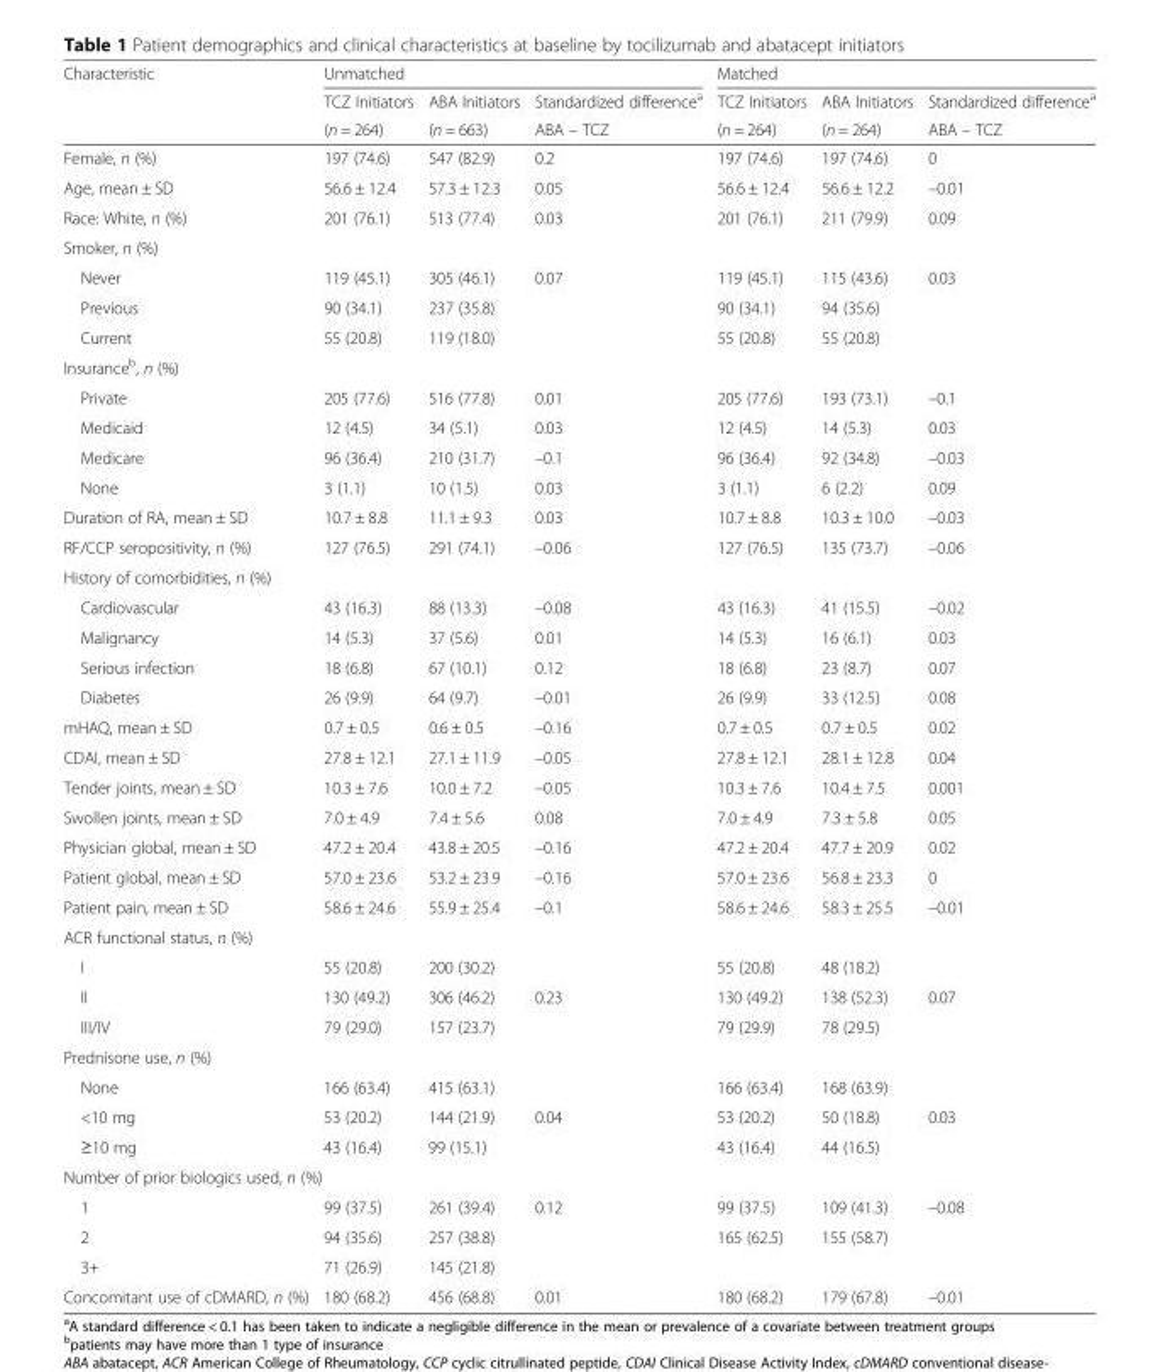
<table><thead><tr><td rowspan="3">Characteristic</td><td colspan="3">Unmatched</td><td colspan="3">Matched</td></tr><tr><td rowspan="2">TCZ Initiators (n = 264)</td><td rowspan="2">ABA Initiators (n = 663)</td><td rowspan="2">Standardized difference<sup>a</sup> ABA – TCZ</td><td rowspan="2">TCZ Initiators (n = 264)</td><td rowspan="2">ABA Initiators (n = 264)</td><td rowspan="2">Standardized difference<sup>a</sup> ABA – TCZ</td></tr><tr></tr></thead><tbody><tr><td>Female, n (%)</td><td>197 (74.6)</td><td>547 (82.9)</td><td>0.2</td><td>197 (74.6)</td><td>197 (74.6)</td><td>0</td></tr><tr><td>Age, mean ± SD</td><td>56.6 ± 12.4</td><td>57.3 ± 12.3</td><td>0.05</td><td>56.6 ± 12.4</td><td>56.6 ± 12.2</td><td>–0.01</td></tr><tr><td>Race: White, n (%)</td><td>201 (76.1)</td><td>513 (77.4)</td><td>0.03</td><td>201 (76.1)</td><td>211 (79.9)</td><td>0.09</td></tr><tr><td colspan="7">Smoker, n (%)</td></tr><tr><td>Never</td><td>119 (45.1)</td><td>305 (46.1)</td><td>0.07</td><td>119 (45.1)</td><td>115 (43.6)</td><td>0.03</td></tr><tr><td>Previous</td><td>90 (34.1)</td><td>237 (35.8)</td><td></td><td>90 (34.1)</td><td>94 (35.6)</td><td></td></tr><tr><td>Current</td><td>55 (20.8)</td><td>119 (18.0)</td><td></td><td>55 (20.8)</td><td>55 (20.8)</td><td></td></tr><tr><td colspan="7">Insurance<sup>b</sup>, n (%)</td></tr><tr><td>Private</td><td>205 (77.6)</td><td>516 (77.8)</td><td>0.01</td><td>205 (77.6)</td><td>193 (73.1)</td><td>–0.1</td></tr><tr><td>Medicaid</td><td>12 (4.5)</td><td>34 (5.1)</td><td>0.03</td><td>12 (4.5)</td><td>14 (5.3)</td><td>0.03</td></tr><tr><td>Medicare</td><td>96 (36.4)</td><td>210 (31.7)</td><td>–0.1</td><td>96 (36.4)</td><td>92 (34.8)</td><td>–0.03</td></tr><tr><td>None</td><td>3 (1.1)</td><td>10 (1.5)</td><td>0.03</td><td>3 (1.1)</td><td>6 (2.2)</td><td>0.09</td></tr><tr><td>Duration of RA, mean ± SD</td><td>10.7 ± 8.8</td><td>11.1 ± 9.3</td><td>0.03</td><td>10.7 ± 8.8</td><td>10.3 ± 10.0</td><td>–0.03</td></tr><tr><td>RF/CCP seropositivity, n (%)</td><td>127 (76.5)</td><td>291 (74.1)</td><td>–0.06</td><td>127 (76.5)</td><td>135 (73.7)</td><td>–0.06</td></tr><tr><td colspan="7">History of comorbidities, n (%)</td></tr><tr><td>Cardiovascular</td><td>43 (16.3)</td><td>88 (13.3)</td><td>–0.08</td><td>43 (16.3)</td><td>41 (15.5)</td><td>–0.02</td></tr><tr><td>Malignancy</td><td>14 (5.3)</td><td>37 (5.6)</td><td>0.01</td><td>14 (5.3)</td><td>16 (6.1)</td><td>0.03</td></tr><tr><td>Serious infection</td><td>18 (6.8)</td><td>67 (10.1)</td><td>0.12</td><td>18 (6.8)</td><td>23 (8.7)</td><td>0.07</td></tr><tr><td>Diabetes</td><td>26 (9.9)</td><td>64 (9.7)</td><td>–0.01</td><td>26 (9.9)</td><td>33 (12.5)</td><td>0.08</td></tr><tr><td>mHAQ, mean ± SD</td><td>0.7 ± 0.5</td><td>0.6 ± 0.5</td><td>–0.16</td><td>0.7 ± 0.5</td><td>0.7 ± 0.5</td><td>0.02</td></tr><tr><td>CDAI, mean ± SD</td><td>27.8 ± 12.1</td><td>27.1 ± 11.9</td><td>–0.05</td><td>27.8 ± 12.1</td><td>28.1 ± 12.8</td><td>0.04</td></tr><tr><td>Tender joints, mean ± SD</td><td>10.3 ± 7.6</td><td>10.0 ± 7.2</td><td>–0.05</td><td>10.3 ± 7.6</td><td>10.4 ± 7.5</td><td>0.001</td></tr><tr><td>Swollen joints, mean ± SD</td><td>7.0 ± 4.9</td><td>7.4 ± 5.6</td><td>0.08</td><td>7.0 ± 4.9</td><td>7.3 ± 5.8</td><td>0.05</td></tr><tr><td>Physician global, mean ± SD</td><td>47.2 ± 20.4</td><td>43.8 ± 20.5</td><td>–0.16</td><td>47.2 ± 20.4</td><td>47.7 ± 20.9</td><td>0.02</td></tr><tr><td>Patient global, mean ± SD</td><td>57.0 ± 23.6</td><td>53.2 ± 23.9</td><td>–0.16</td><td>57.0 ± 23.6</td><td>56.8 ± 23.3</td><td>0</td></tr><tr><td>Patient pain, mean ± SD</td><td>58.6 ± 24.6</td><td>55.9 ± 25.4</td><td>–0.1</td><td>58.6 ± 24.6</td><td>58.3 ± 25.5</td><td>–0.01</td></tr><tr><td colspan="7">ACR functional status, n (%)</td></tr><tr><td>I</td><td>55 (20.8)</td><td>200 (30.2)</td><td></td><td>55 (20.8)</td><td>48 (18.2)</td><td></td></tr><tr><td>II</td><td>130 (49.2)</td><td>306 (46.2)</td><td>0.23</td><td>130 (49.2)</td><td>138 (52.3)</td><td>0.07</td></tr><tr><td>III/IV</td><td>79 (29.0)</td><td>157 (23.7)</td><td></td><td>79 (29.9)</td><td>78 (29.5)</td><td></td></tr><tr><td colspan="7">Prednisone use, n (%)</td></tr><tr><td>None</td><td>166 (63.4)</td><td>415 (63.1)</td><td></td><td>166 (63.4)</td><td>168 (63.9)</td><td></td></tr><tr><td>&lt;10 mg</td><td>53 (20.2)</td><td>144 (21.9)</td><td>0.04</td><td>53 (20.2)</td><td>50 (18.8)</td><td>0.03</td></tr><tr><td>≥10 mg</td><td>43 (16.4)</td><td>99 (15.1)</td><td></td><td>43 (16.4)</td><td>44 (16.5)</td><td></td></tr><tr><td colspan="7">Number of prior biologics used, n (%)</td></tr><tr><td>1</td><td>99 (37.5)</td><td>261 (39.4)</td><td>0.12</td><td>99 (37.5)</td><td>109 (41.3)</td><td>–0.08</td></tr><tr><td>2</td><td>94 (35.6)</td><td>257 (38.8)</td><td></td><td>165 (62.5)</td><td>155 (58.7)</td><td></td></tr><tr><td>3+</td><td>71 (26.9)</td><td>145 (21.8)</td><td></td><td></td><td></td><td></td></tr><tr><td>Concomitant use of cDMARD, n (%)</td><td>180 (68.2)</td><td>456 (68.8)</td><td>0.01</td><td>180 (68.2)</td><td>179 (67.8)</td><td>–0.01</td></tr></tbody></table>